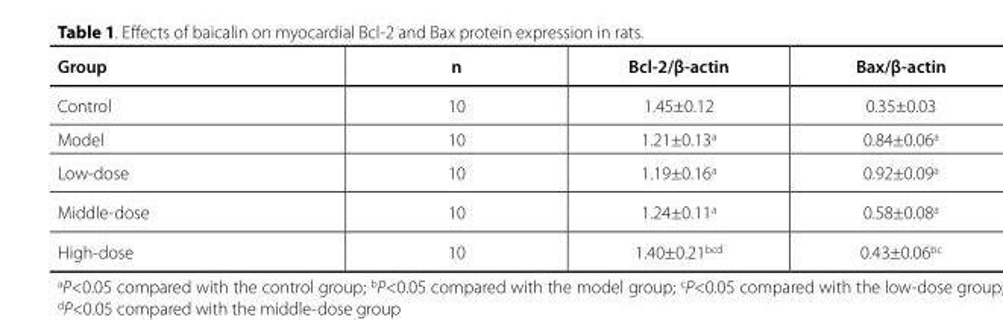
<table><thead><tr><td>Group</td><td>n</td><td>Bcl-2/β-actin</td><td>Bax/β-actin</td></tr></thead><tbody><tr><td>Control</td><td>10</td><td>1.45±0.12</td><td>0.35±0.03</td></tr><tr><td>Model</td><td>10</td><td>1.21±0.13<sup>a</sup></td><td>0.84±0.06<sup>a</sup></td></tr><tr><td>Low-dose</td><td>10</td><td>1.19±0.16<sup>a</sup></td><td>0.92±0.09<sup>a</sup></td></tr><tr><td>Middle-dose</td><td>10</td><td>1.24±0.11<sup>a</sup></td><td>0.58±0.08<sup>a</sup></td></tr><tr><td>High-dose</td><td>10</td><td>1.40±0.21<sup>bcd</sup></td><td>0.43±0.06<sup>bc</sup></td></tr></tbody></table>